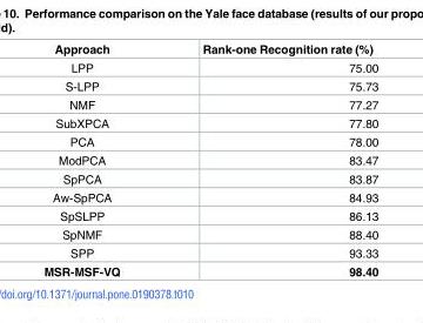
<table><thead><tr><td>Approach</td><td>Rank-one Recognition rate (%)</td></tr></thead><tbody><tr><td>LPP</td><td>75.00</td></tr><tr><td>S-LPP</td><td>75.73</td></tr><tr><td>NMF</td><td>77.27</td></tr><tr><td>SubXPCA</td><td>77.80</td></tr><tr><td>PCA</td><td>78.00</td></tr><tr><td>ModPCA</td><td>83.47</td></tr><tr><td>SpPCA</td><td>83.87</td></tr><tr><td>Aw-SpPCA</td><td>84.93</td></tr><tr><td>SpSLPP</td><td>86.13</td></tr><tr><td>SpNMF</td><td>88.40</td></tr><tr><td>SPP</td><td>93.33</td></tr><tr><td>MSR-MSF-VQ</td><td>98.40</td></tr></tbody></table>